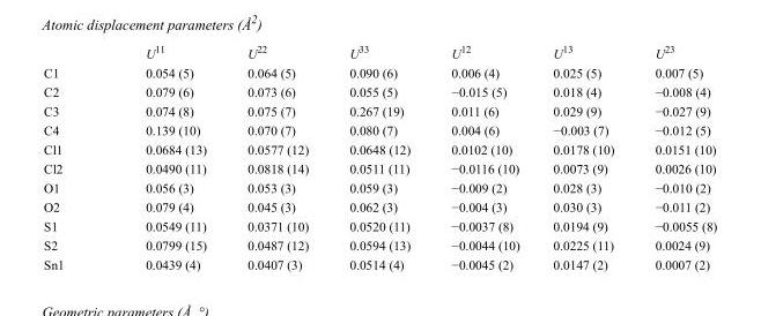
<table><thead><tr><td></td><td>U<sup>11</sup></td><td>U<sup>22</sup></td><td>U<sup>33</sup></td><td>U<sup>12</sup></td><td>U<sup>13</sup></td><td>U<sup>23</sup></td></tr></thead><tbody><tr><td>C1</td><td>0.054 (5)</td><td>0.064 (5)</td><td>0.090 (6)</td><td>0.006 (4)</td><td>0.025 (5)</td><td>0.007 (5)</td></tr><tr><td>C2</td><td>0.079 (6)</td><td>0.073 (6)</td><td>0.055 (5)</td><td>−0.015 (5)</td><td>0.018 (4)</td><td>−0.008 (4)</td></tr><tr><td>C3</td><td>0.074 (8)</td><td>0.075 (7)</td><td>0.267 (19)</td><td>0.011 (6)</td><td>0.029 (9)</td><td>−0.027 (9)</td></tr><tr><td>C4</td><td>0.139 (10)</td><td>0.070 (7)</td><td>0.080 (7)</td><td>0.004 (6)</td><td>−0.003 (7)</td><td>−0.012 (5)</td></tr><tr><td>Cl1</td><td>0.0684 (13)</td><td>0.0577 (12)</td><td>0.0648 (12)</td><td>0.0102 (10)</td><td>0.0178 (10)</td><td>0.0151 (10)</td></tr><tr><td>Cl2</td><td>0.0490 (11)</td><td>0.0818 (14)</td><td>0.0511 (11)</td><td>−0.0116 (10)</td><td>0.0073 (9)</td><td>0.0026 (10)</td></tr><tr><td>O1</td><td>0.056 (3)</td><td>0.053 (3)</td><td>0.059 (3)</td><td>−0.009 (2)</td><td>0.028 (3)</td><td>−0.010 (2)</td></tr><tr><td>O2</td><td>0.079 (4)</td><td>0.045 (3)</td><td>0.062 (3)</td><td>−0.004 (3)</td><td>0.030 (3)</td><td>−0.011 (2)</td></tr><tr><td>S1</td><td>0.0549 (11)</td><td>0.0371 (10)</td><td>0.0520 (11)</td><td>−0.0037 (8)</td><td>0.0194 (9)</td><td>−0.0055 (8)</td></tr><tr><td>S2</td><td>0.0799 (15)</td><td>0.0487 (12)</td><td>0.0594 (13)</td><td>−0.0044 (10)</td><td>0.0225 (11)</td><td>0.0024 (9)</td></tr><tr><td>Sn1</td><td>0.0439 (4)</td><td>0.0407 (3)</td><td>0.0514 (4)</td><td>−0.0045 (2)</td><td>0.0147 (2)</td><td>0.0007 (2)</td></tr></tbody></table>